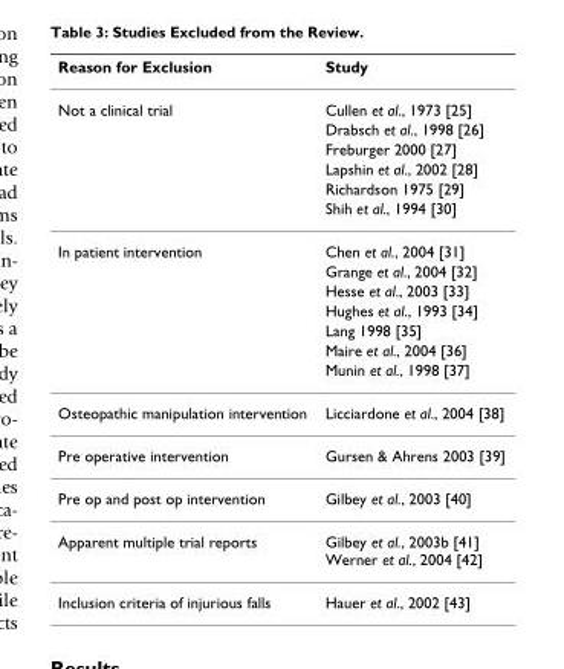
<table><thead><tr><td>Reason for Exclusion</td><td>Study</td></tr></thead><tbody><tr><td rowspan="6">Not a clinical trial</td><td>Cullen et al., 1973 [25]</td></tr><tr><td>Drabsch et al., 1998 [26]</td></tr><tr><td>Freburger 2000 [27]</td></tr><tr><td>Lapshin et al., 2002 [28]</td></tr><tr><td>Richardson 1975 [29]</td></tr><tr><td>Shih et al., 1994 [30]</td></tr><tr><td rowspan="7">In patient intervention</td><td>Chen et al., 2004 [31]</td></tr><tr><td>Grange et al., 2004 [32]</td></tr><tr><td>Hesse et al., 2003 [33]</td></tr><tr><td>Hughes et al., 1993 [34]</td></tr><tr><td>Lang 1998 [35]</td></tr><tr><td>Maire et al., 2004 [36]</td></tr><tr><td>Munin et al., 1998 [37]</td></tr><tr><td>Osteopathic manipulation intervention</td><td>Licciardone et al., 2004 [38]</td></tr><tr><td>Pre operative intervention</td><td>Gursen &amp; Ahrens 2003 [39]</td></tr><tr><td>Pre op and post op intervention</td><td>Gilbey et al., 2003 [40]</td></tr><tr><td>Apparent multiple trial reports</td><td>Gilbey et al., 2003b [41] Werner et al., 2004 [42]</td></tr><tr><td>Inclusion criteria of injurious falls</td><td>Hauer et al., 2002 [43]</td></tr></tbody></table>